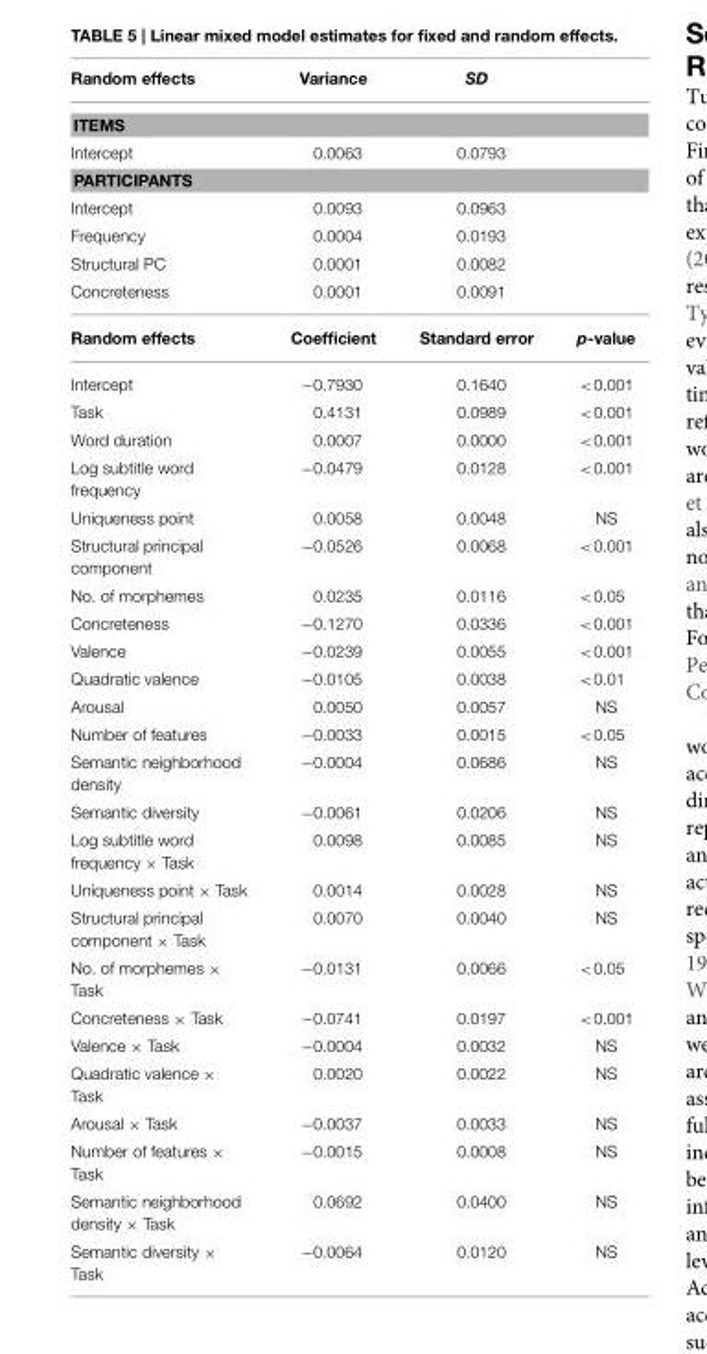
<table><thead><tr><td>Random effects</td><td>Variance</td><td>SD</td><td></td></tr></thead><tbody><tr><td colspan="4">ITEMS</td></tr><tr><td>Intercept</td><td>0.0063</td><td>0.0793</td><td></td></tr><tr><td colspan="4">PARTICIPANTS</td></tr><tr><td>Intercept</td><td>0.0093</td><td>0.0963</td><td></td></tr><tr><td>Frequency</td><td>0.0004</td><td>0.0193</td><td></td></tr><tr><td>Structural PC</td><td>0.0001</td><td>0.0082</td><td></td></tr><tr><td>Concreteness</td><td>0.0001</td><td>0.0091</td><td></td></tr><tr><td>Random effects</td><td>Coefficient</td><td>Standard error</td><td>p-value</td></tr><tr><td>Intercept</td><td>−0.7930</td><td>0.1640</td><td>&lt;0.001</td></tr><tr><td>Task</td><td>0.4131</td><td>0.0989</td><td>&lt;0.001</td></tr><tr><td>Word duration</td><td>0.0007</td><td>0.0000</td><td>&lt;0.001</td></tr><tr><td>Log subtitle word frequency</td><td>−0.0479</td><td>0.0128</td><td>&lt;0.001</td></tr><tr><td>Uniqueness point</td><td>0.0058</td><td>0.0048</td><td>NS</td></tr><tr><td>Structural principal component</td><td>−0.0526</td><td>0.0068</td><td>&lt;0.001</td></tr><tr><td>No. of morphemes</td><td>0.0235</td><td>0.0116</td><td>&lt;0.05</td></tr><tr><td>Concreteness</td><td>−0.1270</td><td>0.0336</td><td>&lt;0.001</td></tr><tr><td>Valence</td><td>−0.0239</td><td>0.0055</td><td>&lt;0.001</td></tr><tr><td>Quadratic valence</td><td>−0.0105</td><td>0.0038</td><td>&lt;0.01</td></tr><tr><td>Arousal</td><td>0.0050</td><td>0.0057</td><td>NS</td></tr><tr><td>Number of features</td><td>−0.0033</td><td>0.0015</td><td>&lt;0.05</td></tr><tr><td>Semantic neighborhood density</td><td>−0.0004</td><td>0.0686</td><td>NS</td></tr><tr><td>Semantic diversity</td><td>−0.0061</td><td>0.0206</td><td>NS</td></tr><tr><td>Log subtitle word frequency × Task</td><td>0.0098</td><td>0.0085</td><td>NS</td></tr><tr><td>Uniqueness point × Task</td><td>0.0014</td><td>0.0028</td><td>NS</td></tr><tr><td>Structural principal component × Task</td><td>0.0070</td><td>0.0040</td><td>NS</td></tr><tr><td>No. of morphemes × Task</td><td>−0.0131</td><td>0.0066</td><td>&lt;0.05</td></tr><tr><td>Concreteness × Task</td><td>−0.0741</td><td>0.0197</td><td>&lt;0.001</td></tr><tr><td>Valence × Task</td><td>−0.0004</td><td>0.0032</td><td>NS</td></tr><tr><td>Quadratic valence × Task</td><td>0.0020</td><td>0.0022</td><td>NS</td></tr><tr><td>Arousal × Task</td><td>−0.0037</td><td>0.0033</td><td>NS</td></tr><tr><td>Number of features × Task</td><td>−0.0015</td><td>0.0008</td><td>NS</td></tr><tr><td>Semantic neighborhood density × Task</td><td>0.0692</td><td>0.0400</td><td>NS</td></tr><tr><td>Semantic diversity × Task</td><td>−0.0064</td><td>0.0120</td><td>NS</td></tr></tbody></table>